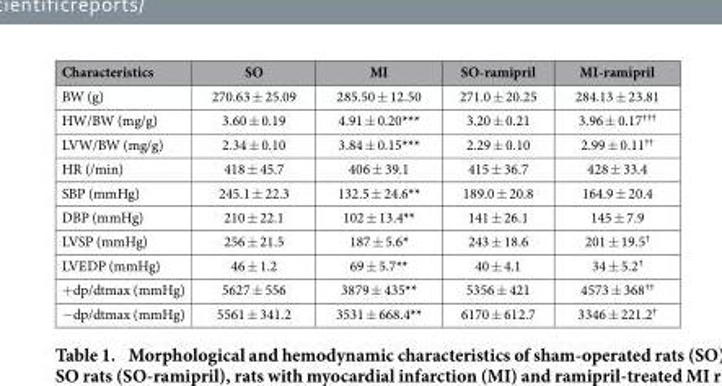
<table><thead><tr><td>Characteristics</td><td>SO</td><td>MI</td><td>SO-ramipril</td><td>MI-ramipril</td></tr></thead><tbody><tr><td>BW (g)</td><td>270.63 ± 25.09</td><td>285.50 ± 12.50</td><td>271.0 ± 20.25</td><td>284.13 ± 23.81</td></tr><tr><td>HW/BW (mg/g)</td><td>3.60 ± 0.19</td><td>4.91 ± 0.20***</td><td>3.20 ± 0.21</td><td>3.96 ± 0.17<sup>†††</sup></td></tr><tr><td>LVW/BW (mg/g)</td><td>2.34 ± 0.10</td><td>3.84 ± 0.15***</td><td>2.29 ± 0.10</td><td>2.99 ± 0.11<sup>††</sup></td></tr><tr><td>HR (/min)</td><td>418 ± 45.7</td><td>406 ± 39.1</td><td>415 ± 36.7</td><td>428 ± 33.4</td></tr><tr><td>SBP (mmHg)</td><td>245.1 ± 22.3</td><td>132.5 ± 24.6**</td><td>189.0 ± 20.8</td><td>164.9 ± 20.4</td></tr><tr><td>DBP (mmHg)</td><td>210 ± 22.1</td><td>102 ± 13.4**</td><td>141 ± 26.1</td><td>145 ± 7.9</td></tr><tr><td>LVSP (mmHg)</td><td>256 ± 21.5</td><td>187 ± 5.6*</td><td>243 ± 18.6</td><td>201 ± 19.5<sup>†</sup></td></tr><tr><td>LVEDP (mmHg)</td><td>46 ± 1.2</td><td>69 ± 5.7**</td><td>40 ± 4.1</td><td>34 ± 5.2<sup>†</sup></td></tr><tr><td>+ dp/dtmax (mmHg)</td><td>5627 ± 556</td><td>3879 ± 435**</td><td>5356 ± 421</td><td>4573 ± 368<sup>††</sup></td></tr><tr><td>− dp/dtmax (mmHg)</td><td>5561 ± 341.2</td><td>3531 ± 668.4**</td><td>6170 ± 612.7</td><td>3346 ± 221.2<sup>†</sup></td></tr></tbody></table>